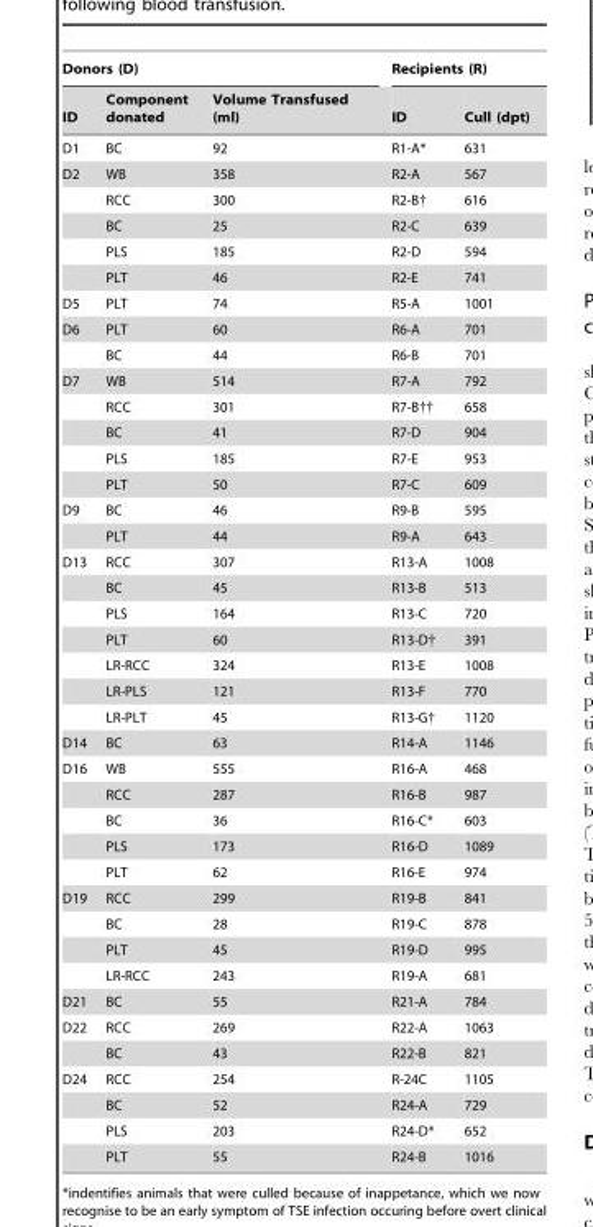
<table><thead><tr><td colspan="3">Donors (D)</td><td colspan="2">Recipients (R)</td></tr><tr><td>ID</td><td>Component donated</td><td>Volume Transfused (ml)</td><td>ID</td><td>Cull (dpt)</td></tr></thead><tbody><tr><td>D1</td><td>BC</td><td>92</td><td>R1-A*</td><td>631</td></tr><tr><td rowspan="5">D2</td><td>WB</td><td>358</td><td>R2-A</td><td>567</td></tr><tr><td>RCC</td><td>300</td><td>R2-B†</td><td>616</td></tr><tr><td>BC</td><td>25</td><td>R2-C</td><td>639</td></tr><tr><td>PLS</td><td>185</td><td>R2-D</td><td>594</td></tr><tr><td>PLT</td><td>46</td><td>R2-E</td><td>741</td></tr><tr><td>D5</td><td>PLT</td><td>74</td><td>R5-A</td><td>1001</td></tr><tr><td rowspan="2">D6</td><td>PLT</td><td>60</td><td>R6-A</td><td>701</td></tr><tr><td>BC</td><td>44</td><td>R6-B</td><td>701</td></tr><tr><td rowspan="5">D7</td><td>WB</td><td>514</td><td>R7-A</td><td>792</td></tr><tr><td>RCC</td><td>301</td><td>R7-B††</td><td>658</td></tr><tr><td>BC</td><td>41</td><td>R7-D</td><td>904</td></tr><tr><td>PLS</td><td>185</td><td>R7-E</td><td>953</td></tr><tr><td>PLT</td><td>50</td><td>R7-C</td><td>609</td></tr><tr><td rowspan="2">D9</td><td>BC</td><td>46</td><td>R9-B</td><td>595</td></tr><tr><td>PLT</td><td>44</td><td>R9-A</td><td>643</td></tr><tr><td rowspan="7">D13</td><td>RCC</td><td>307</td><td>R13-A</td><td>1008</td></tr><tr><td>BC</td><td>45</td><td>R13-B</td><td>513</td></tr><tr><td>PLS</td><td>164</td><td>R13-C</td><td>720</td></tr><tr><td>PLT</td><td>60</td><td>R13-D†</td><td>391</td></tr><tr><td>LR-RCC</td><td>324</td><td>R13-E</td><td>1008</td></tr><tr><td>LR-PLS</td><td>121</td><td>R13-F</td><td>770</td></tr><tr><td>LR-PLT</td><td>45</td><td>R13-G†</td><td>1120</td></tr><tr><td>D14</td><td>BC</td><td>63</td><td>R14-A</td><td>1146</td></tr><tr><td rowspan="5">D16</td><td>WB</td><td>555</td><td>R16-A</td><td>468</td></tr><tr><td>RCC</td><td>287</td><td>R16-B</td><td>987</td></tr><tr><td>BC</td><td>36</td><td>R16-C*</td><td>603</td></tr><tr><td>PLS</td><td>173</td><td>R16-D</td><td>1089</td></tr><tr><td>PLT</td><td>62</td><td>R16-E</td><td>974</td></tr><tr><td rowspan="4">D19</td><td>RCC</td><td>299</td><td>R19-B</td><td>841</td></tr><tr><td>BC</td><td>28</td><td>R19-C</td><td>878</td></tr><tr><td>PLT</td><td>45</td><td>R19-D</td><td>995</td></tr><tr><td>LR-RCC</td><td>243</td><td>R19-A</td><td>681</td></tr><tr><td>D21</td><td>BC</td><td>55</td><td>R21-A</td><td>784</td></tr><tr><td rowspan="2">D22</td><td>RCC</td><td>269</td><td>R22-A</td><td>1063</td></tr><tr><td>BC</td><td>43</td><td>R22-B</td><td>821</td></tr><tr><td rowspan="4">D24</td><td>RCC</td><td>254</td><td>R-24C</td><td>1105</td></tr><tr><td>BC</td><td>52</td><td>R24-A</td><td>729</td></tr><tr><td>PLS</td><td>203</td><td>R24-D*</td><td>652</td></tr><tr><td>PLT</td><td>55</td><td>R24-B</td><td>1016</td></tr></tbody></table>